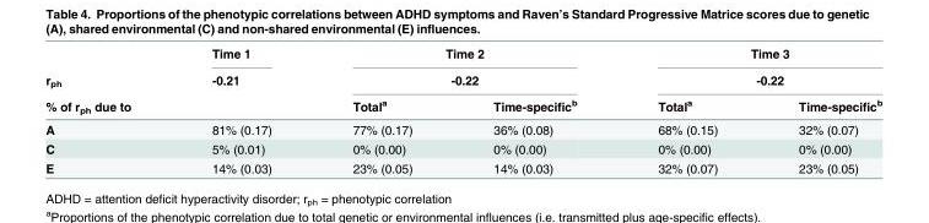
<table><thead><tr><td rowspan="3">r<sub>ph</sub> % of r<sub>ph</sub> due to</td><td rowspan="3">Time 1 -0.21</td><td rowspan="2" colspan="2">Time 2 -0.22</td><td rowspan="2" colspan="2">Time 3 -0.22</td></tr><tr></tr><tr><td>Total<sup>a</sup></td><td>Time-specific<sup>b</sup></td><td>Total<sup>a</sup></td><td>Time-specific<sup>b</sup></td></tr></thead><tbody><tr><td>A</td><td>81% (0.17)</td><td>77% (0.17)</td><td>36% (0.08)</td><td>68% (0.15)</td><td>32% (0.07)</td></tr><tr><td>C</td><td>5% (0.01)</td><td>0% (0.00)</td><td>0% (0.00)</td><td>0% (0.00)</td><td>0% (0.00)</td></tr><tr><td>E</td><td>14% (0.03)</td><td>23% (0.05)</td><td>14% (0.03)</td><td>32% (0.07)</td><td>23% (0.05)</td></tr></tbody></table>